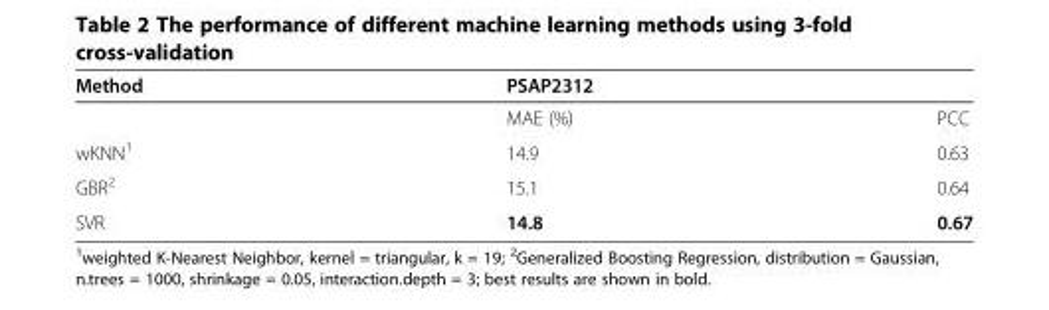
<table><thead><tr><td rowspan="2">Method</td><td colspan="2">PSAP2312</td></tr><tr><td>MAE (%)</td><td>PCC</td></tr></thead><tbody><tr><td>wKNN<sup>1</sup></td><td>14.9</td><td>0.63</td></tr><tr><td>GBR<sup>2</sup></td><td>15.1</td><td>0.64</td></tr><tr><td>SVR</td><td>14.8</td><td>0.67</td></tr></tbody></table>